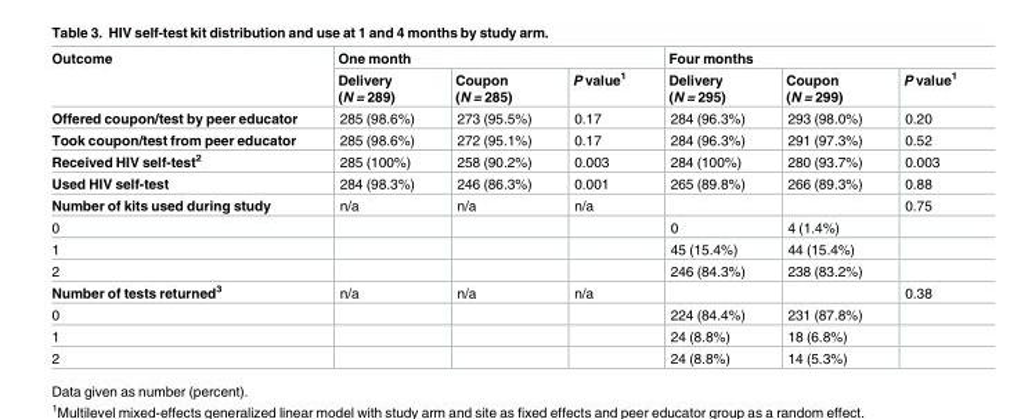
<table><thead><tr><td rowspan="2">Outcome</td><td colspan="3">One month</td><td colspan="3">Four months</td></tr><tr><td>Delivery (N = 289)</td><td>Coupon (N = 285)</td><td>P value<sup>1</sup></td><td>Delivery (N = 295)</td><td>Coupon (N = 299)</td><td>P value<sup>1</sup></td></tr></thead><tbody><tr><td>Offered coupon/test by peer educator</td><td>285 (98.6%)</td><td>273 (95.5%)</td><td>0.17</td><td>284 (96.3%)</td><td>293 (98.0%)</td><td>0.20</td></tr><tr><td>Took coupon/test from peer educator</td><td>285 (98.6%)</td><td>272 (95.1%)</td><td>0.17</td><td>284 (96.3%)</td><td>291 (97.3%)</td><td>0.52</td></tr><tr><td>Received HIV self-test<sup>2</sup></td><td>285 (100%)</td><td>258 (90.2%)</td><td>0.003</td><td>284 (100%)</td><td>280 (93.7%)</td><td>0.003</td></tr><tr><td>Used HIV self-test</td><td>284 (98.3%)</td><td>246 (86.3%)</td><td>0.001</td><td>265 (89.8%)</td><td>266 (89.3%)</td><td>0.88</td></tr><tr><td>Number of kits used during study</td><td>n/a</td><td>n/a</td><td>n/a</td><td></td><td></td><td>0.75</td></tr><tr><td>0</td><td></td><td></td><td></td><td>0</td><td>4 (1.4%)</td><td></td></tr><tr><td>1</td><td></td><td></td><td></td><td>45 (15.4%)</td><td>44 (15.4%)</td><td></td></tr><tr><td>2</td><td></td><td></td><td></td><td>246 (84.3%)</td><td>238 (83.2%)</td><td></td></tr><tr><td>Number of tests returned<sup>3</sup></td><td>n/a</td><td>n/a</td><td>n/a</td><td></td><td></td><td>0.38</td></tr><tr><td>0</td><td></td><td></td><td></td><td>224 (84.4%)</td><td>231 (87.8%)</td><td></td></tr><tr><td>1</td><td></td><td></td><td></td><td>24 (8.8%)</td><td>18 (6.8%)</td><td></td></tr><tr><td>2</td><td></td><td></td><td></td><td>24 (8.8%)</td><td>14 (5.3%)</td><td></td></tr></tbody></table>